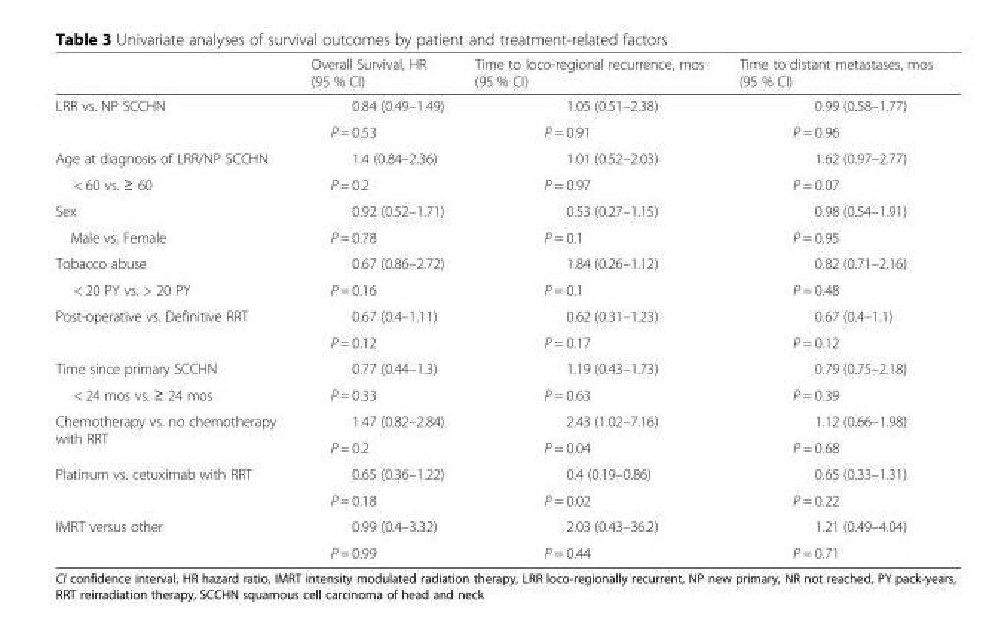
<table><thead><tr><td></td><td>Overall Survival, HR (95 % CI)</td><td>Time to loco-regional recurrence, mos (95 % CI)</td><td>Time to distant metastases, mos (95 % CI)</td></tr></thead><tbody><tr><td rowspan="2">LRR vs. NP SCCHN</td><td>0.84 (0.49–1.49)</td><td>1.05 (0.51–2.38)</td><td>0.99 (0.58–1.77)</td></tr><tr><td>P = 0.53</td><td>P = 0.91</td><td>P = 0.96</td></tr><tr><td>Age at diagnosis of LRR/NP SCCHN</td><td>1.4 (0.84–2.36)</td><td>1.01 (0.52–2.03)</td><td>1.62 (0.97–2.77)</td></tr><tr><td>&lt; 60 vs. ≥ 60</td><td>P = 0.2</td><td>P = 0.97</td><td>P = 0.07</td></tr><tr><td>Sex</td><td>0.92 (0.52–1.71)</td><td>0.53 (0.27–1.15)</td><td>0.98 (0.54–1.91)</td></tr><tr><td>Male vs. Female</td><td>P = 0.78</td><td>P = 0.1</td><td>P = 0.95</td></tr><tr><td>Tobacco abuse</td><td>0.67 (0.86–2.72)</td><td>1.84 (0.26–1.12)</td><td>0.82 (0.71–2.16)</td></tr><tr><td>&lt; 20 PY vs. &gt; 20 PY</td><td>P = 0.16</td><td>P = 0.1</td><td>P = 0.48</td></tr><tr><td rowspan="2">Post-operative vs. Definitive RRT</td><td>0.67 (0.4–1.11)</td><td>0.62 (0.31–1.23)</td><td>0.67 (0.4–1.1)</td></tr><tr><td>P = 0.12</td><td>P = 0.17</td><td>P = 0.12</td></tr><tr><td>Time since primary SCCHN</td><td>0.77 (0.44–1.3)</td><td>1.19 (0.43–1.73)</td><td>0.79 (0.75–2.18)</td></tr><tr><td>&lt; 24 mos vs. ≥ 24 mos</td><td>P = 0.33</td><td>P = 0.63</td><td>P = 0.39</td></tr><tr><td rowspan="2">Chemotherapy vs. no chemotherapy with RRT</td><td>1.47 (0.82–2.84)</td><td>2.43 (1.02–7.16)</td><td>1.12 (0.66–1.98)</td></tr><tr><td>P = 0.2</td><td>P = 0.04</td><td>P = 0.68</td></tr><tr><td rowspan="2">Platinum vs. cetuximab with RRT</td><td>0.65 (0.36–1.22)</td><td>0.4 (0.19–0.86)</td><td>0.65 (0.33–1.31)</td></tr><tr><td>P = 0.18</td><td>P = 0.02</td><td>P = 0.22</td></tr><tr><td rowspan="2">IMRT versus other</td><td>0.99 (0.4–3.32)</td><td>2.03 (0.43–36.2)</td><td>1.21 (0.49–4.04)</td></tr><tr><td>P = 0.99</td><td>P = 0.44</td><td>P = 0.71</td></tr></tbody></table>